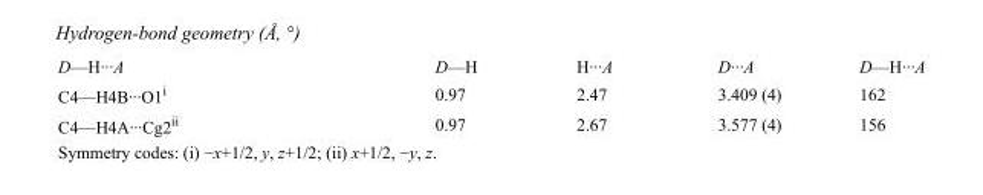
<table><tbody><tr><td>D—H···A</td><td>D—H</td><td>H···A</td><td>D···A</td><td>D—H···A</td></tr><tr><td>C4—H4B···O1<sup>i</sup></td><td>0.97</td><td>2.47</td><td>3.409 (4)</td><td>162</td></tr><tr><td>C4—H4A···Cg2<sup>ii</sup></td><td>0.97</td><td>2.67</td><td>3.577 (4)</td><td>156</td></tr></tbody></table>